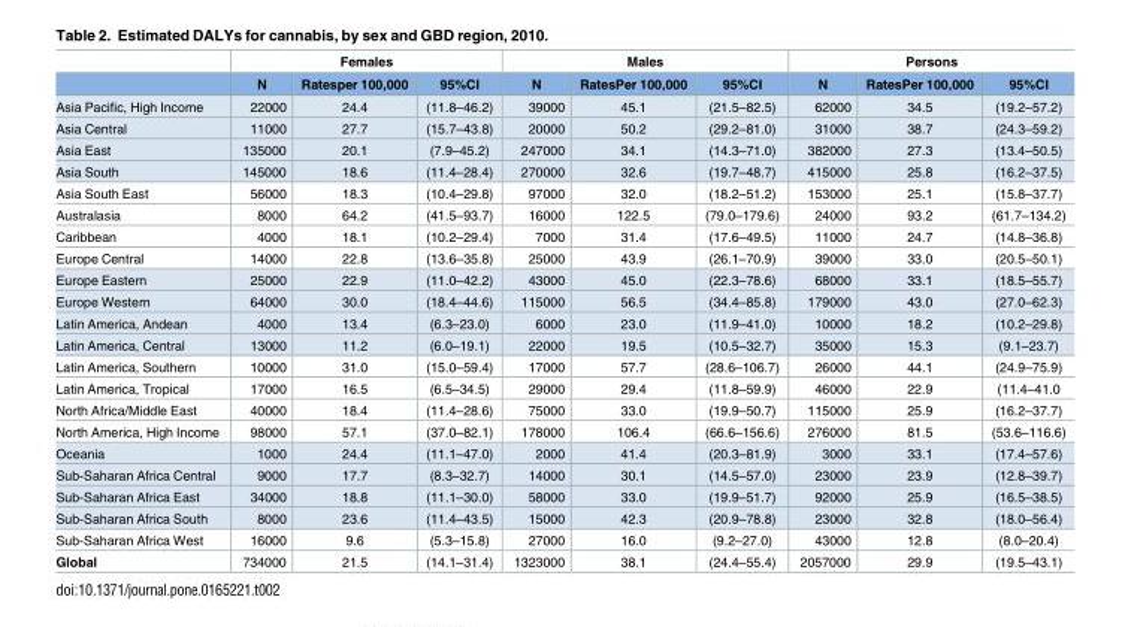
<table><thead><tr><td rowspan="2"></td><td colspan="3">Females</td><td colspan="3">Males</td><td colspan="3">Persons</td></tr><tr><td>N</td><td>Ratesper 100,000</td><td>95%CI</td><td>N</td><td>RatesPer 100,000</td><td>95%CI</td><td>N</td><td>RatesPer 100,000</td><td>95%CI</td></tr></thead><tbody><tr><td>Asia Pacific, High Income</td><td>22000</td><td>24.4</td><td>(11.8–46.2)</td><td>39000</td><td>45.1</td><td>(21.5–82.5)</td><td>62000</td><td>34.5</td><td>(19.2–57.2)</td></tr><tr><td>Asia Central</td><td>11000</td><td>27.7</td><td>(15.7–43.8)</td><td>20000</td><td>50.2</td><td>(29.2–81.0)</td><td>31000</td><td>38.7</td><td>(24.3–59.2)</td></tr><tr><td>Asia East</td><td>135000</td><td>20.1</td><td>(7.9–45.2)</td><td>247000</td><td>34.1</td><td>(14.3–71.0)</td><td>382000</td><td>27.3</td><td>(13.4–50.5)</td></tr><tr><td>Asia South</td><td>145000</td><td>18.6</td><td>(11.4–28.4)</td><td>270000</td><td>32.6</td><td>(19.7–48.7)</td><td>415000</td><td>25.8</td><td>(16.2–37.5)</td></tr><tr><td>Asia South East</td><td>56000</td><td>18.3</td><td>(10.4–29.8)</td><td>97000</td><td>32.0</td><td>(18.2–51.2)</td><td>153000</td><td>25.1</td><td>(15.8–37.7)</td></tr><tr><td>Australasia</td><td>8000</td><td>64.2</td><td>(41.5–93.7)</td><td>16000</td><td>122.5</td><td>(79.0–179.6)</td><td>24000</td><td>93.2</td><td>(61.7–134.2)</td></tr><tr><td>Caribbean</td><td>4000</td><td>18.1</td><td>(10.2–29.4)</td><td>7000</td><td>31.4</td><td>(17.6–49.5)</td><td>11000</td><td>24.7</td><td>(14.8–36.8)</td></tr><tr><td>Europe Central</td><td>14000</td><td>22.8</td><td>(13.6–35.8)</td><td>25000</td><td>43.9</td><td>(26.1–70.9)</td><td>39000</td><td>33.0</td><td>(20.5–50.1)</td></tr><tr><td>Europe Eastern</td><td>25000</td><td>22.9</td><td>(11.0–42.2)</td><td>43000</td><td>45.0</td><td>(22.3–78.6)</td><td>68000</td><td>33.1</td><td>(18.5–55.7)</td></tr><tr><td>Europe Western</td><td>64000</td><td>30.0</td><td>(18.4–44.6)</td><td>115000</td><td>56.5</td><td>(34.4–85.8)</td><td>179000</td><td>43.0</td><td>(27.0–62.3)</td></tr><tr><td>Latin America, Andean</td><td>4000</td><td>13.4</td><td>(6.3–23.0)</td><td>6000</td><td>23.0</td><td>(11.9–41.0)</td><td>10000</td><td>18.2</td><td>(10.2–29.8)</td></tr><tr><td>Latin America, Central</td><td>13000</td><td>11.2</td><td>(6.0–19.1)</td><td>22000</td><td>19.5</td><td>(10.5–32.7)</td><td>35000</td><td>15.3</td><td>(9.1–23.7)</td></tr><tr><td>Latin America, Southern</td><td>10000</td><td>31.0</td><td>(15.0–59.4)</td><td>17000</td><td>57.7</td><td>(28.6–106.7)</td><td>26000</td><td>44.1</td><td>(24.9–75.9)</td></tr><tr><td>Latin America, Tropical</td><td>17000</td><td>16.5</td><td>(6.5–34.5)</td><td>29000</td><td>29.4</td><td>(11.8–59.9)</td><td>46000</td><td>22.9</td><td>(11.4–41.0</td></tr><tr><td>North Africa/Middle East</td><td>40000</td><td>18.4</td><td>(11.4–28.6)</td><td>75000</td><td>33.0</td><td>(19.9–50.7)</td><td>115000</td><td>25.9</td><td>(16.2–37.7)</td></tr><tr><td>North America, High Income</td><td>98000</td><td>57.1</td><td>(37.0–82.1)</td><td>178000</td><td>106.4</td><td>(66.6–156.6)</td><td>276000</td><td>81.5</td><td>(53.6–116.6)</td></tr><tr><td>Oceania</td><td>1000</td><td>24.4</td><td>(11.1–47.0)</td><td>2000</td><td>41.4</td><td>(20.3–81.9)</td><td>3000</td><td>33.1</td><td>(17.4–57.6)</td></tr><tr><td>Sub-Saharan Africa Central</td><td>9000</td><td>17.7</td><td>(8.3–32.7)</td><td>14000</td><td>30.1</td><td>(14.5–57.0)</td><td>23000</td><td>23.9</td><td>(12.8–39.7)</td></tr><tr><td>Sub-Saharan Africa East</td><td>34000</td><td>18.8</td><td>(11.1–30.0)</td><td>58000</td><td>33.0</td><td>(19.9–51.7)</td><td>92000</td><td>25.9</td><td>(16.5–38.5)</td></tr><tr><td>Sub-Saharan Africa South</td><td>8000</td><td>23.6</td><td>(11.4–43.5)</td><td>15000</td><td>42.3</td><td>(20.9–78.8)</td><td>23000</td><td>32.8</td><td>(18.0–56.4)</td></tr><tr><td>Sub-Saharan Africa West</td><td>16000</td><td>9.6</td><td>(5.3–15.8)</td><td>27000</td><td>16.0</td><td>(9.2–27.0)</td><td>43000</td><td>12.8</td><td>(8.0–20.4)</td></tr><tr><td>Global</td><td>734000</td><td>21.5</td><td>(14.1–31.4)</td><td>1323000</td><td>38.1</td><td>(24.4–55.4)</td><td>2057000</td><td>29.9</td><td>(19.5–43.1)</td></tr></tbody></table>